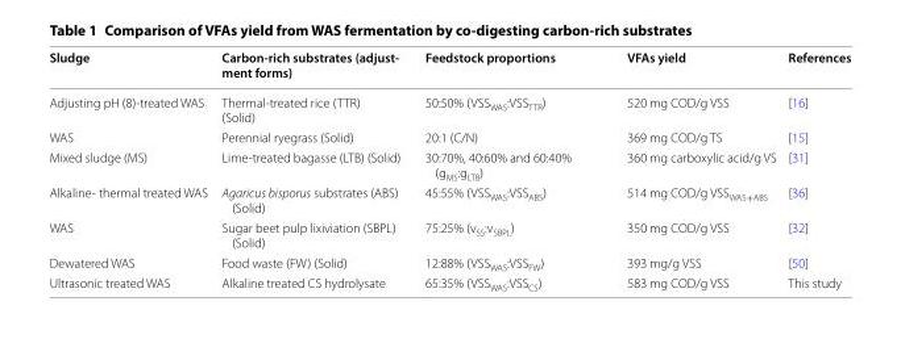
<table><thead><tr><td>Sludge</td><td>Carbon-rich substrates (adjust- ment forms)</td><td>Feedstock proportions</td><td>VFAs yield</td><td>References</td></tr></thead><tbody><tr><td>Adjusting pH (8)-treated WAS</td><td>Thermal-treated rice (TTR) (Solid)</td><td>50:50% (VSS<sub>WAS</sub>:VSS<sub>TTR</sub>)</td><td>520 mg COD/g VSS</td><td>[16]</td></tr><tr><td>WAS</td><td>Perennial ryegrass (Solid)</td><td>20:1 (C/N)</td><td>369 mg COD/g TS</td><td>[15]</td></tr><tr><td>Mixed sludge (MS)</td><td>Lime-treated bagasse (LTB) (Solid)</td><td>30:70%, 40:60% and 60:40% (g<sub>MS</sub>:g<sub>LTB</sub>)</td><td>360 mg carboxylic acid/g VS</td><td>[31]</td></tr><tr><td>Alkaline- thermal treated WAS</td><td>Agaricus bisporus substrates (ABS) (Solid)</td><td>45:55% (VSS<sub>WAS</sub>:VSS<sub>ABS</sub>)</td><td>514 mg COD/g VSS<sub>WAS+ABS</sub></td><td>[36]</td></tr><tr><td>WAS</td><td>Sugar beet pulp lixiviation (SBPL) (Solid)</td><td>75:25% (v<sub>SS</sub>:v<sub>SBPL</sub>)</td><td>350 mg COD/g VSS</td><td>[32]</td></tr><tr><td>Dewatered WAS</td><td>Food waste (FW) (Solid)</td><td>12:88% (VSS<sub>WAS</sub>:VSS<sub>FW</sub>)</td><td>393 mg/g VSS</td><td>[50]</td></tr><tr><td>Ultrasonic treated WAS</td><td>Alkaline treated CS hydrolysate</td><td>65:35% (VSS<sub>WAS</sub>:VSS<sub>CS</sub>)</td><td>583 mg COD/g VSS</td><td>This study</td></tr></tbody></table>